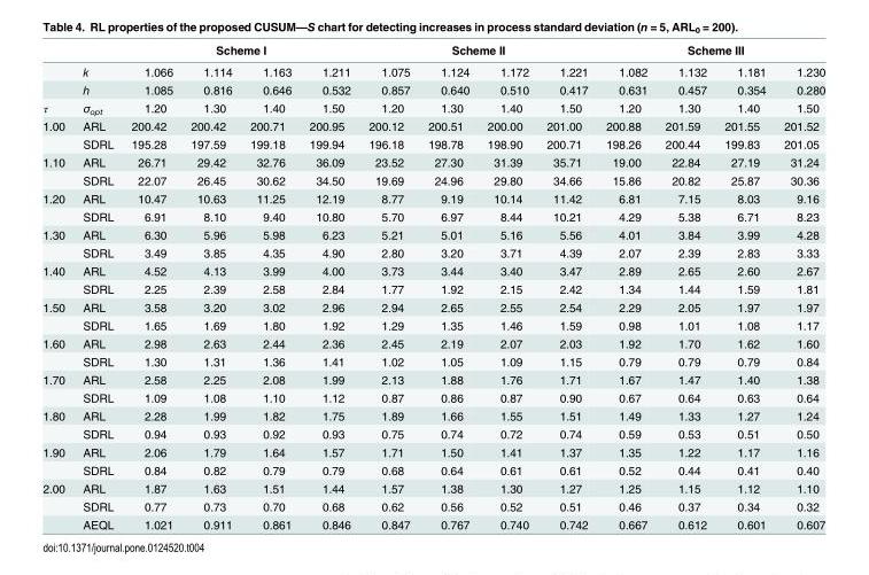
<table><thead><tr><td rowspan="2"></td><td rowspan="2">k</td><td colspan="4">Scheme I</td><td colspan="4">Scheme II</td><td colspan="4">Scheme III</td></tr><tr><td>1.066</td><td>1.114</td><td>1.163</td><td>1.211</td><td>1.075</td><td>1.124</td><td>1.172</td><td>1.221</td><td>1.082</td><td>1.132</td><td>1.181</td><td>1.230</td></tr></thead><tbody><tr><td></td><td>h</td><td>1.085</td><td>0.816</td><td>0.646</td><td>0.532</td><td>0.857</td><td>0.640</td><td>0.510</td><td>0.417</td><td>0.631</td><td>0.457</td><td>0.354</td><td>0.280</td></tr><tr><td>τ</td><td>σ<sub>opt</sub></td><td>1.20</td><td>1.30</td><td>1.40</td><td>1.50</td><td>1.20</td><td>1.30</td><td>1.40</td><td>1.50</td><td>1.20</td><td>1.30</td><td>1.40</td><td>1.50</td></tr><tr><td rowspan="2">1.00</td><td>ARL</td><td>200.42</td><td>200.42</td><td>200.71</td><td>200.95</td><td>200.12</td><td>200.51</td><td>200.00</td><td>201.00</td><td>200.88</td><td>201.59</td><td>201.55</td><td>201.52</td></tr><tr><td>SDRL</td><td>195.28</td><td>197.59</td><td>199.18</td><td>199.94</td><td>196.18</td><td>198.78</td><td>198.90</td><td>200.71</td><td>198.26</td><td>200.44</td><td>199.83</td><td>201.05</td></tr><tr><td rowspan="2">1.10</td><td>ARL</td><td>26.71</td><td>29.42</td><td>32.76</td><td>36.09</td><td>23.52</td><td>27.30</td><td>31.39</td><td>35.71</td><td>19.00</td><td>22.84</td><td>27.19</td><td>31.24</td></tr><tr><td>SDRL</td><td>22.07</td><td>26.45</td><td>30.62</td><td>34.50</td><td>19.69</td><td>24.96</td><td>29.80</td><td>34.66</td><td>15.86</td><td>20.82</td><td>25.87</td><td>30.36</td></tr><tr><td rowspan="2">1.20</td><td>ARL</td><td>10.47</td><td>10.63</td><td>11.25</td><td>12.19</td><td>8.77</td><td>9.19</td><td>10.14</td><td>11.42</td><td>6.81</td><td>7.15</td><td>8.03</td><td>9.16</td></tr><tr><td>SDRL</td><td>6.91</td><td>8.10</td><td>9.40</td><td>10.80</td><td>5.70</td><td>6.97</td><td>8.44</td><td>10.21</td><td>4.29</td><td>5.38</td><td>6.71</td><td>8.23</td></tr><tr><td rowspan="2">1.30</td><td>ARL</td><td>6.30</td><td>5.96</td><td>5.98</td><td>6.23</td><td>5.21</td><td>5.01</td><td>5.16</td><td>5.56</td><td>4.01</td><td>3.84</td><td>3.99</td><td>4.28</td></tr><tr><td>SDRL</td><td>3.49</td><td>3.85</td><td>4.35</td><td>4.90</td><td>2.80</td><td>3.20</td><td>3.71</td><td>4.39</td><td>2.07</td><td>2.39</td><td>2.83</td><td>3.33</td></tr><tr><td rowspan="2">1.40</td><td>ARL</td><td>4.52</td><td>4.13</td><td>3.99</td><td>4.00</td><td>3.73</td><td>3.44</td><td>3.40</td><td>3.47</td><td>2.89</td><td>2.65</td><td>2.60</td><td>2.67</td></tr><tr><td>SDRL</td><td>2.25</td><td>2.39</td><td>2.58</td><td>2.84</td><td>1.77</td><td>1.92</td><td>2.15</td><td>2.42</td><td>1.34</td><td>1.44</td><td>1.59</td><td>1.81</td></tr><tr><td rowspan="2">1.50</td><td>ARL</td><td>3.58</td><td>3.20</td><td>3.02</td><td>2.96</td><td>2.94</td><td>2.65</td><td>2.55</td><td>2.54</td><td>2.29</td><td>2.05</td><td>1.97</td><td>1.97</td></tr><tr><td>SDRL</td><td>1.65</td><td>1.69</td><td>1.80</td><td>1.92</td><td>1.29</td><td>1.35</td><td>1.46</td><td>1.59</td><td>0.98</td><td>1.01</td><td>1.08</td><td>1.17</td></tr><tr><td rowspan="2">1.60</td><td>ARL</td><td>2.98</td><td>2.63</td><td>2.44</td><td>2.36</td><td>2.45</td><td>2.19</td><td>2.07</td><td>2.03</td><td>1.92</td><td>1.70</td><td>1.62</td><td>1.60</td></tr><tr><td>SDRL</td><td>1.30</td><td>1.31</td><td>1.36</td><td>1.41</td><td>1.02</td><td>1.05</td><td>1.09</td><td>1.15</td><td>0.79</td><td>0.79</td><td>0.79</td><td>0.84</td></tr><tr><td rowspan="2">1.70</td><td>ARL</td><td>2.58</td><td>2.25</td><td>2.08</td><td>1.99</td><td>2.13</td><td>1.88</td><td>1.76</td><td>1.71</td><td>1.67</td><td>1.47</td><td>1.40</td><td>1.38</td></tr><tr><td>SDRL</td><td>1.09</td><td>1.08</td><td>1.10</td><td>1.12</td><td>0.87</td><td>0.86</td><td>0.87</td><td>0.90</td><td>0.67</td><td>0.64</td><td>0.63</td><td>0.64</td></tr><tr><td rowspan="2">1.80</td><td>ARL</td><td>2.28</td><td>1.99</td><td>1.82</td><td>1.75</td><td>1.89</td><td>1.66</td><td>1.55</td><td>1.51</td><td>1.49</td><td>1.33</td><td>1.27</td><td>1.24</td></tr><tr><td>SDRL</td><td>0.94</td><td>0.93</td><td>0.92</td><td>0.93</td><td>0.75</td><td>0.74</td><td>0.72</td><td>0.74</td><td>0.59</td><td>0.53</td><td>0.51</td><td>0.50</td></tr><tr><td rowspan="2">1.90</td><td>ARL</td><td>2.06</td><td>1.79</td><td>1.64</td><td>1.57</td><td>1.71</td><td>1.50</td><td>1.41</td><td>1.37</td><td>1.35</td><td>1.22</td><td>1.17</td><td>1.16</td></tr><tr><td>SDRL</td><td>0.84</td><td>0.82</td><td>0.79</td><td>0.79</td><td>0.68</td><td>0.64</td><td>0.61</td><td>0.61</td><td>0.52</td><td>0.44</td><td>0.41</td><td>0.40</td></tr><tr><td rowspan="3">2.00</td><td>ARL</td><td>1.87</td><td>1.63</td><td>1.51</td><td>1.44</td><td>1.57</td><td>1.38</td><td>1.30</td><td>1.27</td><td>1.25</td><td>1.15</td><td>1.12</td><td>1.10</td></tr><tr><td>SDRL</td><td>0.77</td><td>0.73</td><td>0.70</td><td>0.68</td><td>0.62</td><td>0.56</td><td>0.52</td><td>0.51</td><td>0.46</td><td>0.37</td><td>0.34</td><td>0.32</td></tr><tr><td>AEQL</td><td>1.021</td><td>0.911</td><td>0.861</td><td>0.846</td><td>0.847</td><td>0.767</td><td>0.740</td><td>0.742</td><td>0.667</td><td>0.612</td><td>0.601</td><td>0.607</td></tr></tbody></table>